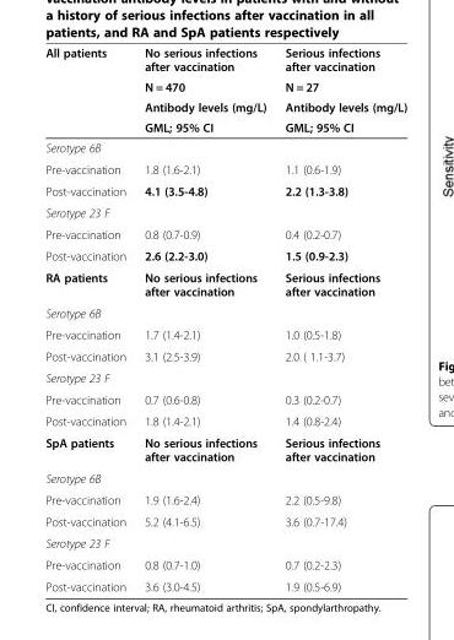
<table><thead><tr><td rowspan="4">All patients</td><td rowspan="4">No serious infections after vaccination N = 470 Antibody levels (mg/L) GML; 95% CI</td><td rowspan="4">Serious infections after vaccination N = 27 Antibody levels (mg/L) GML; 95% CI</td></tr><tr></tr><tr></tr><tr></tr></thead><tbody><tr><td colspan="3">Serotype 6B</td></tr><tr><td>Pre-vaccination</td><td>1.8 (1.6-2.1)</td><td>1.1 (0.6-1.9)</td></tr><tr><td>Post-vaccination</td><td>4.1 (3.5-4.8)</td><td>2.2 (1.3-3.8)</td></tr><tr><td colspan="3">Serotype 23 F</td></tr><tr><td>Pre-vaccination</td><td>0.8 (0.7-0.9)</td><td>0.4 (0.2-0.7)</td></tr><tr><td>Post-vaccination</td><td>2.6 (2.2-3.0)</td><td>1.5 (0.9-2.3)</td></tr><tr><td>RA patients</td><td>No serious infections after vaccination</td><td>Serious infections after vaccination</td></tr><tr><td colspan="3">Serotype 6B</td></tr><tr><td>Pre-vaccination</td><td>1.7 (1.4-2.1)</td><td>1.0 (0.5-1.8)</td></tr><tr><td>Post-vaccination</td><td>3.1 (2.5-3.9)</td><td>2.0 ( 1.1-3.7)</td></tr><tr><td colspan="3">Serotype 23 F</td></tr><tr><td>Pre-vaccination</td><td>0.7 (0.6-0.8)</td><td>0.3 (0.2-0.7)</td></tr><tr><td>Post-vaccination</td><td>1.8 (1.4-2.1)</td><td>1.4 (0.8-2.4)</td></tr><tr><td>SpA patients</td><td>No serious infections after vaccination</td><td>Serious infections after vaccination</td></tr><tr><td colspan="3">Serotype 6B</td></tr><tr><td>Pre-vaccination</td><td>1.9 (1.6-2.4)</td><td>2.2 (0.5-9.8)</td></tr><tr><td>Post-vaccination</td><td>5.2 (4.1-6.5)</td><td>3.6 (0.7-17.4)</td></tr><tr><td colspan="3">Serotype 23 F</td></tr><tr><td>Pre-vaccination</td><td>0.8 (0.7-1.0)</td><td>0.7 (0.2-2.3)</td></tr><tr><td>Post-vaccination</td><td>3.6 (3.0-4.5)</td><td>1.9 (0.5-6.9)</td></tr></tbody></table>